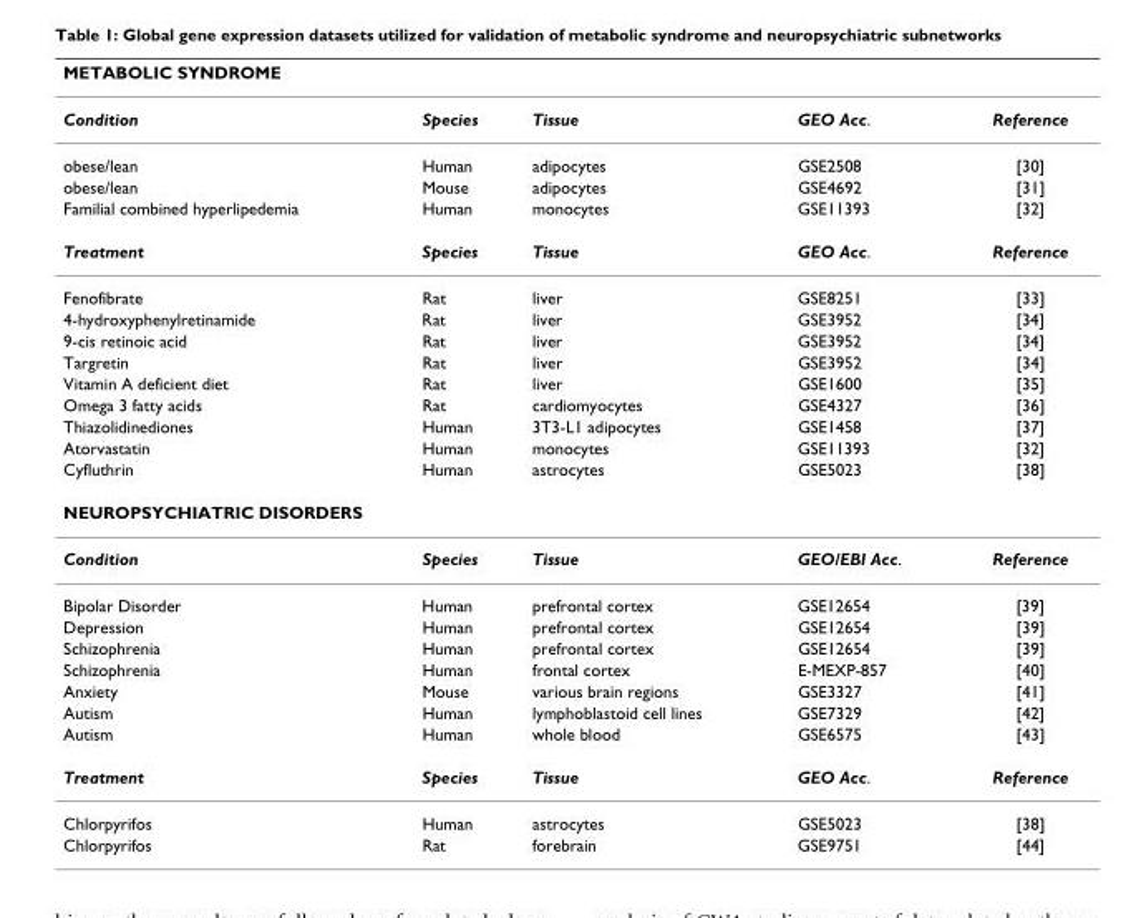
<table><thead><tr><td colspan="5">METABOLIC SYNDROME</td></tr><tr><td>Condition</td><td>Species</td><td>Tissue</td><td>GEO Acc.</td><td>Reference</td></tr></thead><tbody><tr><td>obese/lean</td><td>Human</td><td>adipocytes</td><td>GSE2508</td><td>[30]</td></tr><tr><td>obese/lean</td><td>Mouse</td><td>adipocytes</td><td>GSE4692</td><td>[31]</td></tr><tr><td>Familial combined hyperlipedemia</td><td>Human</td><td>monocytes</td><td>GSE11393</td><td>[32]</td></tr><tr><td>Treatment</td><td>Species</td><td>Tissue</td><td>GEO Acc.</td><td>Reference</td></tr><tr><td>Fenofibrate</td><td>Rat</td><td>liver</td><td>GSE8251</td><td>[33]</td></tr><tr><td>4-hydroxyphenylretinamide</td><td>Rat</td><td>liver</td><td>GSE3952</td><td>[34]</td></tr><tr><td>9-cis retinoic acid</td><td>Rat</td><td>liver</td><td>GSE3952</td><td>[34]</td></tr><tr><td>Targretin</td><td>Rat</td><td>liver</td><td>GSE3952</td><td>[34]</td></tr><tr><td>Vitamin A deficient diet</td><td>Rat</td><td>liver</td><td>GSE1600</td><td>[35]</td></tr><tr><td>Omega 3 fatty acids</td><td>Rat</td><td>cardiomyocytes</td><td>GSE4327</td><td>[36]</td></tr><tr><td>Thiazolidinediones</td><td>Human</td><td>3T3-L1 adipocytes</td><td>GSE1458</td><td>[37]</td></tr><tr><td>Atorvastatin</td><td>Human</td><td>monocytes</td><td>GSE11393</td><td>[32]</td></tr><tr><td>Cyfluthrin</td><td>Human</td><td>astrocytes</td><td>GSE5023</td><td>[38]</td></tr><tr><td colspan="5">NEUROPSYCHIATRIC DISORDERS</td></tr><tr><td>Condition</td><td>Species</td><td>Tissue</td><td>GEO/EBI Acc.</td><td>Reference</td></tr><tr><td>Bipolar Disorder</td><td>Human</td><td>prefrontal cortex</td><td>GSE12654</td><td>[39]</td></tr><tr><td>Depression</td><td>Human</td><td>prefrontal cortex</td><td>GSE12654</td><td>[39]</td></tr><tr><td>Schizophrenia</td><td>Human</td><td>prefrontal cortex</td><td>GSE12654</td><td>[39]</td></tr><tr><td>Schizophrenia</td><td>Human</td><td>frontal cortex</td><td>E-MEXP-857</td><td>[40]</td></tr><tr><td>Anxiety</td><td>Mouse</td><td>various brain regions</td><td>GSE3327</td><td>[41]</td></tr><tr><td>Autism</td><td>Human</td><td>lymphoblastoid cell lines</td><td>GSE7329</td><td>[42]</td></tr><tr><td>Autism</td><td>Human</td><td>whole blood</td><td>GSE6575</td><td>[43]</td></tr><tr><td>Treatment</td><td>Species</td><td>Tissue</td><td>GEO Acc.</td><td>Reference</td></tr><tr><td>Chlorpyrifos</td><td>Human</td><td>astrocytes</td><td>GSE5023</td><td>[38]</td></tr><tr><td>Chlorpyrifos</td><td>Rat</td><td>forebrain</td><td>GSE9751</td><td>[44]</td></tr></tbody></table>